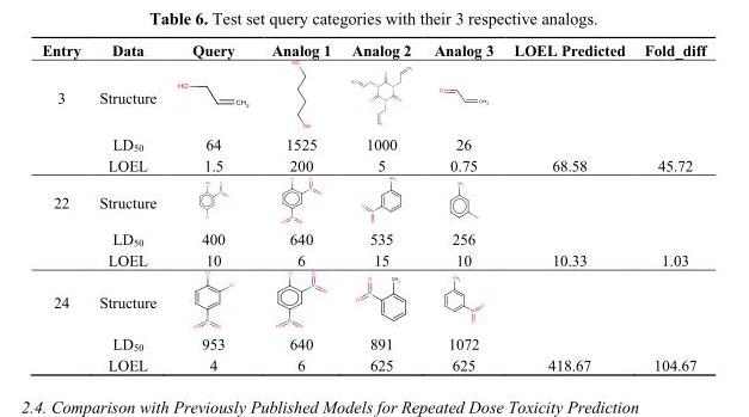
<table><thead><tr><td>Entry</td><td>Data</td><td>Query</td><td>Analog 1</td><td>Analog 2</td><td>Analog 3</td><td>LOEL Predicted</td><td>Fold_diff</td></tr></thead><tbody><tr><td rowspan="3">3</td><td>Structure</td><td></td><td></td><td></td><td></td><td></td><td></td></tr><tr><td>LD<sub>50</sub></td><td>64</td><td>1525</td><td>1000</td><td>26</td><td></td><td></td></tr><tr><td>LOEL</td><td>1.5</td><td>200</td><td>5</td><td>0.75</td><td>68.58</td><td>45.72</td></tr><tr><td rowspan="3">22</td><td>Structure</td><td></td><td></td><td></td><td></td><td></td><td></td></tr><tr><td>LD<sub>50</sub></td><td>400</td><td>640</td><td>535</td><td>256</td><td></td><td></td></tr><tr><td>LOEL</td><td>10</td><td>6</td><td>15</td><td>10</td><td>10.33</td><td>1.03</td></tr><tr><td rowspan="3">24</td><td>Structure</td><td></td><td></td><td></td><td></td><td></td><td></td></tr><tr><td>LD<sub>50</sub></td><td>953</td><td>640</td><td>891</td><td>1072</td><td></td><td></td></tr><tr><td>LOEL</td><td>4</td><td>6</td><td>625</td><td>625</td><td>418.67</td><td>104.67</td></tr></tbody></table>